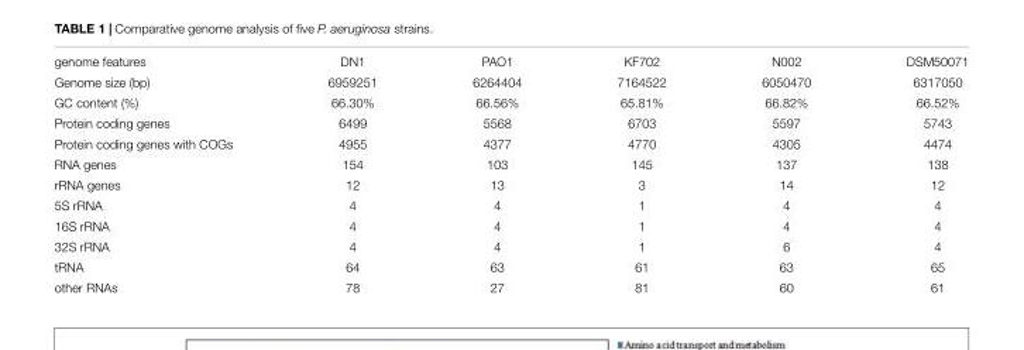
<table><tbody><tr><td>genome features</td><td>DN1</td><td>PAO1</td><td>KF702</td><td>N002</td><td>DSM50071</td></tr><tr><td>Genome size (bp)</td><td>6959251</td><td>6264404</td><td>7164522</td><td>6050470</td><td>6317050</td></tr><tr><td>GC content (%)</td><td>66.30%</td><td>66.56%</td><td>65.81%</td><td>66.82%</td><td>66.52%</td></tr><tr><td>Protein coding genes</td><td>6499</td><td>5568</td><td>6703</td><td>5597</td><td>5743</td></tr><tr><td>Protein coding genes with COGs</td><td>4955</td><td>4377</td><td>4770</td><td>4305</td><td>4474</td></tr><tr><td>RNA genes</td><td>154</td><td>103</td><td>145</td><td>137</td><td>138</td></tr><tr><td>rRNA genes</td><td>12</td><td>13</td><td>3</td><td>14</td><td>12</td></tr><tr><td>5S rRNA</td><td>4</td><td>4</td><td>1</td><td>4</td><td>4</td></tr><tr><td>16S rRNA</td><td>4</td><td>4</td><td>1</td><td>4</td><td>4</td></tr><tr><td>32S rRNA</td><td>4</td><td>4</td><td>1</td><td>6</td><td>4</td></tr><tr><td>tRNA</td><td>64</td><td>63</td><td>61</td><td>63</td><td>65</td></tr><tr><td>other RNAs</td><td>78</td><td>27</td><td>81</td><td>60</td><td>61</td></tr></tbody></table>